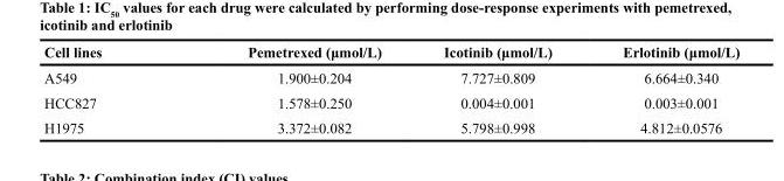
<table><thead><tr><td>Cell lines</td><td>Pemetrexed (μmol/L)</td><td>Icotinib (μmol/L)</td><td>Erlotinib (μmol/L)</td></tr></thead><tbody><tr><td>A549</td><td>1.900±0.204</td><td>7.727±0.809</td><td>6.664±0.340</td></tr><tr><td>HCC827</td><td>1.578±0.250</td><td>0.004±0.001</td><td>0.003±0.001</td></tr><tr><td>H1975</td><td>3.372±0.082</td><td>5.798±0.998</td><td>4.812±0.0576</td></tr></tbody></table>